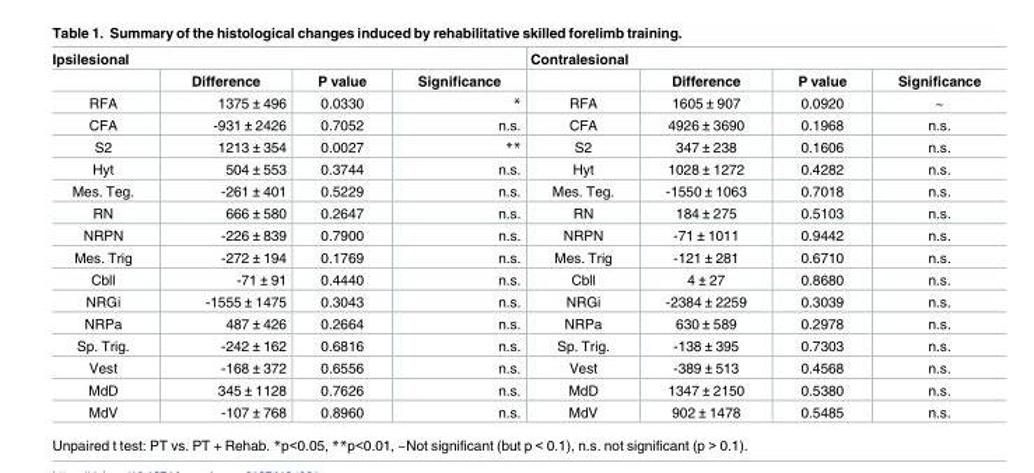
<table><thead><tr><td colspan="4">Ipsilesional</td><td colspan="4">Contralesional</td></tr><tr><td></td><td>Difference</td><td>P value</td><td>Significance</td><td></td><td>Difference</td><td>P value</td><td>Significance</td></tr></thead><tbody><tr><td>RFA</td><td>1375 ± 496</td><td>0.0330</td><td>*</td><td>RFA</td><td>1605 ± 907</td><td>0.0920</td><td>~</td></tr><tr><td>CFA</td><td>-931 ± 2426</td><td>0.7052</td><td>n.s.</td><td>CFA</td><td>4926 ± 3690</td><td>0.1968</td><td>n.s.</td></tr><tr><td>S2</td><td>1213 ± 354</td><td>0.0027</td><td>**</td><td>S2</td><td>347 ± 238</td><td>0.1606</td><td>n.s.</td></tr><tr><td>Hyt</td><td>504 ± 553</td><td>0.3744</td><td>n.s.</td><td>Hyt</td><td>1028 ± 1272</td><td>0.4282</td><td>n.s.</td></tr><tr><td>Mes. Teg.</td><td>-261 ± 401</td><td>0.5229</td><td>n.s.</td><td>Mes. Teg.</td><td>-1550 ± 1063</td><td>0.7018</td><td>n.s.</td></tr><tr><td>RN</td><td>666 ± 580</td><td>0.2647</td><td>n.s.</td><td>RN</td><td>184 ± 275</td><td>0.5103</td><td>n.s.</td></tr><tr><td>NRPN</td><td>-226 ± 839</td><td>0.7900</td><td>n.s.</td><td>NRPN</td><td>-71 ± 1011</td><td>0.9442</td><td>n.s.</td></tr><tr><td>Mes. Trig</td><td>-272 ± 194</td><td>0.1769</td><td>n.s.</td><td>Mes. Trig</td><td>-121 ± 281</td><td>0.6710</td><td>n.s.</td></tr><tr><td>Cbll</td><td>-71 ± 91</td><td>0.4440</td><td>n.s.</td><td>Cbll</td><td>4 ± 27</td><td>0.8680</td><td>n.s.</td></tr><tr><td>NRGi</td><td>-1555 ± 1475</td><td>0.3043</td><td>n.s.</td><td>NRGi</td><td>-2384 ± 2259</td><td>0.3039</td><td>n.s.</td></tr><tr><td>NRPa</td><td>487 ± 426</td><td>0.2664</td><td>n.s.</td><td>NRPa</td><td>630 ± 589</td><td>0.2978</td><td>n.s.</td></tr><tr><td>Sp. Trig.</td><td>-242 ± 162</td><td>0.6816</td><td>n.s.</td><td>Sp. Trig.</td><td>-138 ± 395</td><td>0.7303</td><td>n.s.</td></tr><tr><td>Vest</td><td>-168 ± 372</td><td>0.6556</td><td>n.s.</td><td>Vest</td><td>-389 ± 513</td><td>0.4568</td><td>n.s.</td></tr><tr><td>MdD</td><td>345 ± 1128</td><td>0.7626</td><td>n.s.</td><td>MdD</td><td>1347 ± 2150</td><td>0.5380</td><td>n.s.</td></tr><tr><td>MdV</td><td>-107 ± 768</td><td>0.8960</td><td>n.s.</td><td>MdV</td><td>902 ± 1478</td><td>0.5485</td><td>n.s.</td></tr></tbody></table>